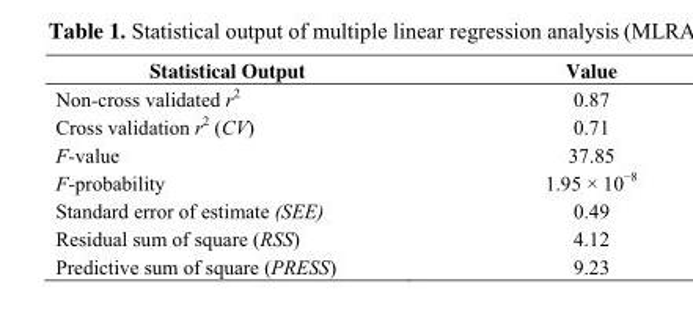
<table><thead><tr><td>Statistical Output</td><td>Value</td></tr></thead><tbody><tr><td>Non-cross validated r<sup>2</sup></td><td>0.87</td></tr><tr><td>Cross validation r<sup>2</sup> (CV)</td><td>0.71</td></tr><tr><td>F-value</td><td>37.85</td></tr><tr><td>F-probability</td><td>1.95 × 10<sup>−8</sup></td></tr><tr><td>Standard error of estimate (SEE)</td><td>0.49</td></tr><tr><td>Residual sum of square (RSS)</td><td>4.12</td></tr><tr><td>Predictive sum of square (PRESS)</td><td>9.23</td></tr></tbody></table>